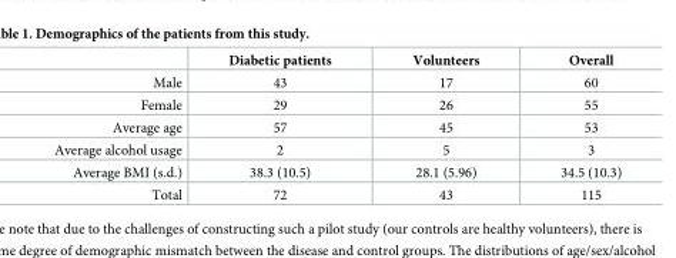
<table><thead><tr><td></td><td>Diabetic patients</td><td>Volunteers</td><td>Overall</td></tr></thead><tbody><tr><td>Male</td><td>43</td><td>17</td><td>60</td></tr><tr><td>Female</td><td>29</td><td>26</td><td>55</td></tr><tr><td>Average age</td><td>57</td><td>45</td><td>53</td></tr><tr><td>Average alcohol usage</td><td>2</td><td>5</td><td>3</td></tr><tr><td>Average BMI (s.d.)</td><td>38.3 (10.5)</td><td>28.1 (5.96)</td><td>34.5 (10.3)</td></tr><tr><td>Total</td><td>72</td><td>43</td><td>115</td></tr></tbody></table>